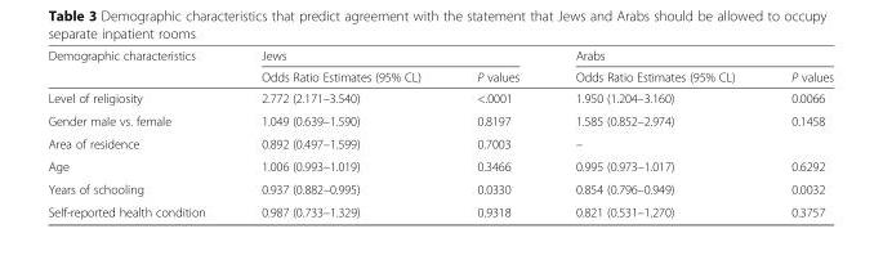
<table><thead><tr><td rowspan="2">Demographic characteristics</td><td colspan="2">Jews</td><td colspan="2">Arabs</td></tr><tr><td>Odds Ratio Estimates (95% CL)</td><td>P values</td><td>Odds Ratio Estimates (95% CL)</td><td>P values</td></tr></thead><tbody><tr><td>Level of religiosity</td><td>2.772 (2.171–3.540)</td><td>&lt;.0001</td><td>1.950 (1.204–3.160)</td><td>0.0066</td></tr><tr><td>Gender male vs. female</td><td>1.049 (0.639–1.590)</td><td>0.8197</td><td>1.585 (0.852–2.974)</td><td>0.1458</td></tr><tr><td>Area of residence</td><td>0.892 (0.497–1.599)</td><td>0.7003</td><td>–</td><td></td></tr><tr><td>Age</td><td>1.006 (0.993–1.019)</td><td>0.3466</td><td>0.995 (0.973–1.017)</td><td>0.6292</td></tr><tr><td>Years of schooling</td><td>0.937 (0.882–0.995)</td><td>0.0330</td><td>0.854 (0.796–0.949)</td><td>0.0032</td></tr><tr><td>Self-reported health condition</td><td>0.987 (0.733–1.329)</td><td>0.9318</td><td>0.821 (0.531–1.270)</td><td>0.3757</td></tr></tbody></table>